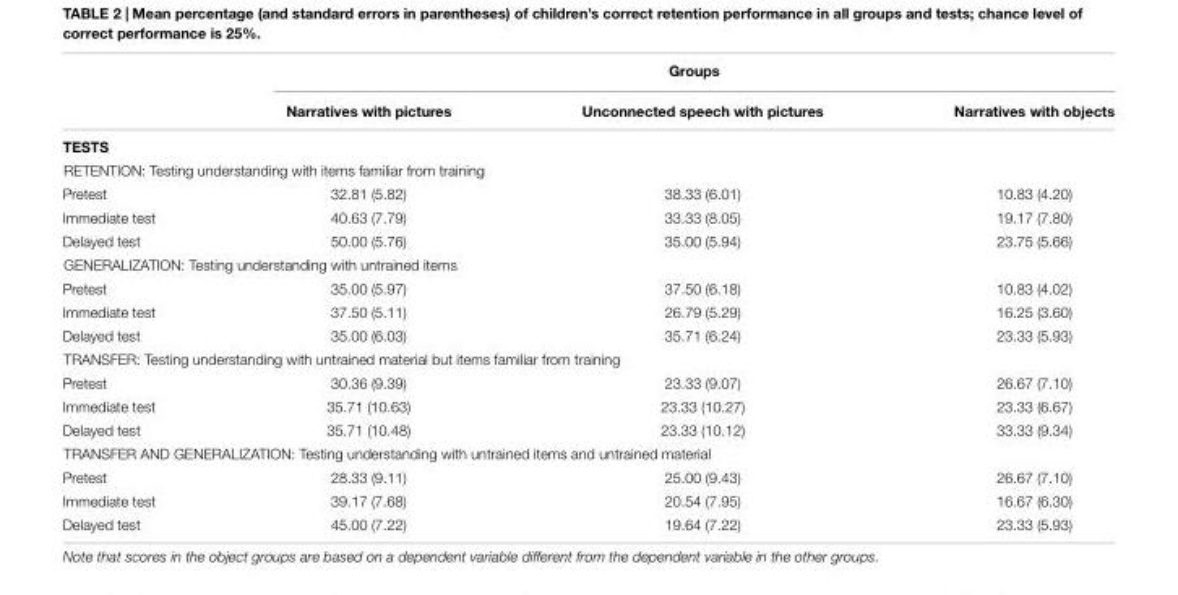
<table><thead><tr><td rowspan="2"></td><td colspan="3">Groups</td></tr><tr><td>Narratives with pictures</td><td>Unconnected speech with pictures</td><td>Narratives with objects</td></tr></thead><tbody><tr><td colspan="4">TESTS</td></tr><tr><td colspan="4">RETENTION: Testing understanding with items familiar from training</td></tr><tr><td>Pretest</td><td>32.81 (5.82)</td><td>38.33 (6.01)</td><td>10.83 (4.20)</td></tr><tr><td>Immediate test</td><td>40.63 (7.79)</td><td>33.33 (8.05)</td><td>19.17 (7.80)</td></tr><tr><td>Delayed test</td><td>50.00 (5.76)</td><td>35.00 (5.94)</td><td>23.75 (5.66)</td></tr><tr><td colspan="4">GENERALIZATION: Testing understanding with untrained items</td></tr><tr><td>Pretest</td><td>35.00 (5.97)</td><td>37.50 (6.18)</td><td>10.83 (4.02)</td></tr><tr><td>Immediate test</td><td>37.50 (5.11)</td><td>26.79 (5.29)</td><td>16.25 (3.60)</td></tr><tr><td>Delayed test</td><td>35.00 (6.03)</td><td>35.71 (6.24)</td><td>23.33 (5.93)</td></tr><tr><td colspan="4">TRANSFER: Testing understanding with untrained material but items familiar from training</td></tr><tr><td>Pretest</td><td>30.36 (9.39)</td><td>23.33 (9.07)</td><td>26.67 (7.10)</td></tr><tr><td>Immediate test</td><td>35.71 (10.63)</td><td>23.33 (10.27)</td><td>23.33 (6.67)</td></tr><tr><td>Delayed test</td><td>35.71 (10.48)</td><td>23.33 (10.12)</td><td>33.33 (9.34)</td></tr><tr><td colspan="4">TRANSFER AND GENERALIZATION: Testing understanding with untrained items and untrained material</td></tr><tr><td>Pretest</td><td>28.33 (9.11)</td><td>25.00 (9.43)</td><td>26.67 (7.10)</td></tr><tr><td>Immediate test</td><td>39.17 (7.68)</td><td>20.54 (7.95)</td><td>16.67 (6.30)</td></tr><tr><td>Delayed test</td><td>45.00 (7.22)</td><td>19.64 (7.22)</td><td>23.33 (5.93)</td></tr></tbody></table>